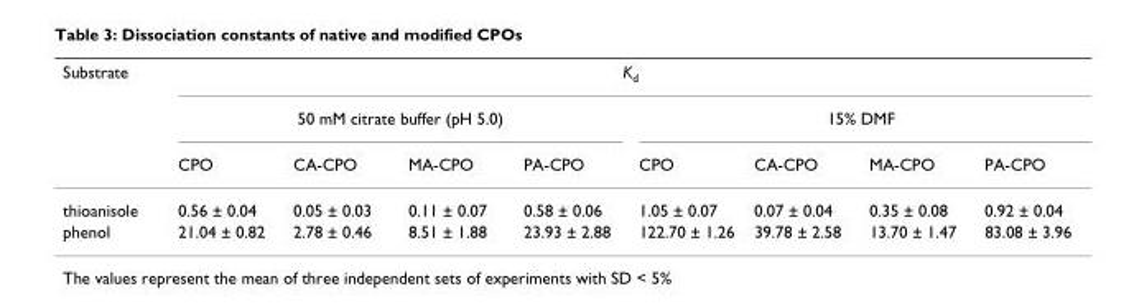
<table><thead><tr><td rowspan="3">Substrate</td><td colspan="8">Kd</td></tr><tr><td colspan="4">50 mM citrate buffer (pH 5.0)</td><td colspan="4">15% DMF</td></tr><tr><td>CPO</td><td>CA-CPO</td><td>MA-CPO</td><td>PA-CPO</td><td>CPO</td><td>CA-CPO</td><td>MA-CPO</td><td>PA-CPO</td></tr></thead><tbody><tr><td>thioanisole</td><td>0.56 ± 0.04</td><td>0.05 ± 0.03</td><td>0.11 ± 0.07</td><td>0.58 ± 0.06</td><td>1.05 ± 0.07</td><td>0.07 ± 0.04</td><td>0.35 ± 0.08</td><td>0.92 ± 0.04</td></tr><tr><td>phenol</td><td>21.04 ± 0.82</td><td>2.78 ± 0.46</td><td>8.51 ± 1.88</td><td>23.93 ± 2.88</td><td>122.70 ± 1.26</td><td>39.78 ± 2.58</td><td>13.70 ± 1.47</td><td>83.08 ± 3.96</td></tr></tbody></table>